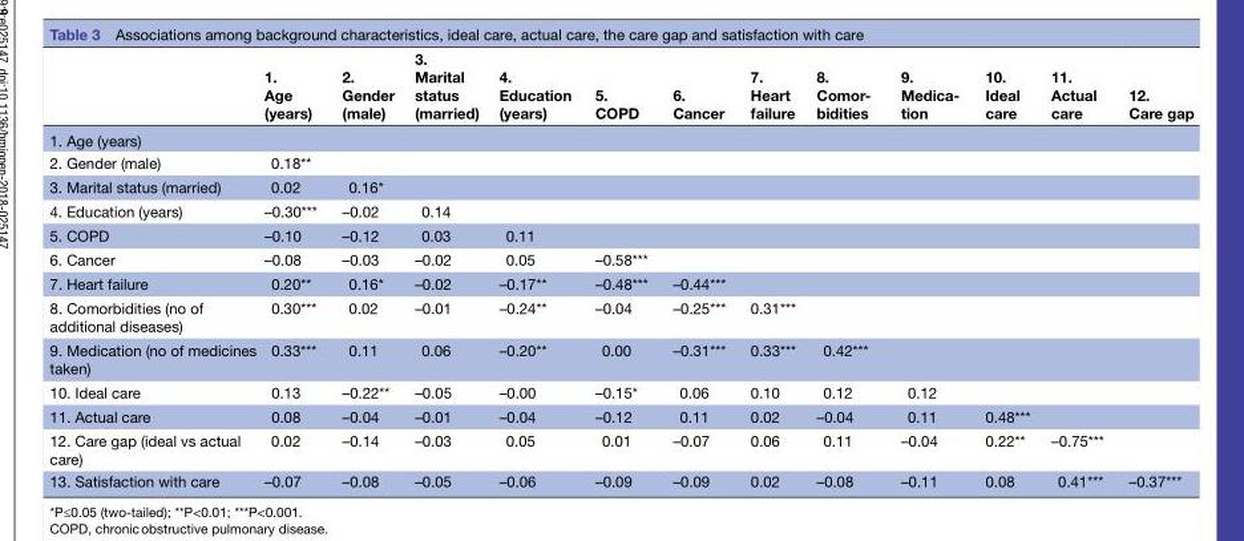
<table><thead><tr><td></td><td>1. Age (years)</td><td>2. Gender (male)</td><td>3. Marital status (married)</td><td>4. Education (years)</td><td>5. COPD</td><td>6. Cancer</td><td>7. Heart failure</td><td>8. Comor- bidities</td><td>9. Medica- tion</td><td>10. Ideal care</td><td>11. Actual care</td><td>12. Care gap</td></tr></thead><tbody><tr><td colspan="13">1. Age (years)</td></tr><tr><td>2. Gender (male)</td><td>0.18**</td><td></td><td></td><td></td><td></td><td></td><td></td><td></td><td></td><td></td><td></td><td></td></tr><tr><td>3. Marital status (married)</td><td>0.02</td><td>0.16*</td><td></td><td></td><td></td><td></td><td></td><td></td><td></td><td></td><td></td><td></td></tr><tr><td>4. Education (years)</td><td>–0.30***</td><td>–0.02</td><td>0.14</td><td></td><td></td><td></td><td></td><td></td><td></td><td></td><td></td><td></td></tr><tr><td>5. COPD</td><td>–0.10</td><td>–0.12</td><td>0.03</td><td>0.11</td><td></td><td></td><td></td><td></td><td></td><td></td><td></td><td></td></tr><tr><td>6. Cancer</td><td>–0.08</td><td>–0.03</td><td>–0.02</td><td>0.05</td><td>–0.58***</td><td></td><td></td><td></td><td></td><td></td><td></td><td></td></tr><tr><td>7. Heart failure</td><td>0.20**</td><td>0.16*</td><td>–0.02</td><td>–0.17**</td><td>–0.48***</td><td>–0.44***</td><td></td><td></td><td></td><td></td><td></td><td></td></tr><tr><td>8. Comorbidities (no of additional diseases)</td><td>0.30***</td><td>0.02</td><td>–0.01</td><td>–0.24**</td><td>–0.04</td><td>–0.25***</td><td>0.31***</td><td></td><td></td><td></td><td></td><td></td></tr><tr><td>9. Medication (no of medicines taken)</td><td>0.33***</td><td>0.11</td><td>0.06</td><td>–0.20**</td><td>0.00</td><td>–0.31***</td><td>0.33***</td><td>0.42***</td><td></td><td></td><td></td><td></td></tr><tr><td>10. Ideal care</td><td>0.13</td><td>–0.22**</td><td>–0.05</td><td>–0.00</td><td>–0.15*</td><td>0.06</td><td>0.10</td><td>0.12</td><td>0.12</td><td></td><td></td><td></td></tr><tr><td>11. Actual care</td><td>0.08</td><td>–0.04</td><td>–0.01</td><td>–0.04</td><td>–0.12</td><td>0.11</td><td>0.02</td><td>–0.04</td><td>0.11</td><td>0.48***</td><td></td><td></td></tr><tr><td>12. Care gap (ideal vs actual care)</td><td>0.02</td><td>–0.14</td><td>–0.03</td><td>0.05</td><td>0.01</td><td>–0.07</td><td>0.06</td><td>0.11</td><td>–0.04</td><td>0.22**</td><td>–0.75***</td><td></td></tr><tr><td>13. Satisfaction with care</td><td>–0.07</td><td>–0.08</td><td>–0.05</td><td>–0.06</td><td>–0.09</td><td>–0.09</td><td>0.02</td><td>–0.08</td><td>–0.11</td><td>0.08</td><td>0.41***</td><td>–0.37***</td></tr></tbody></table>